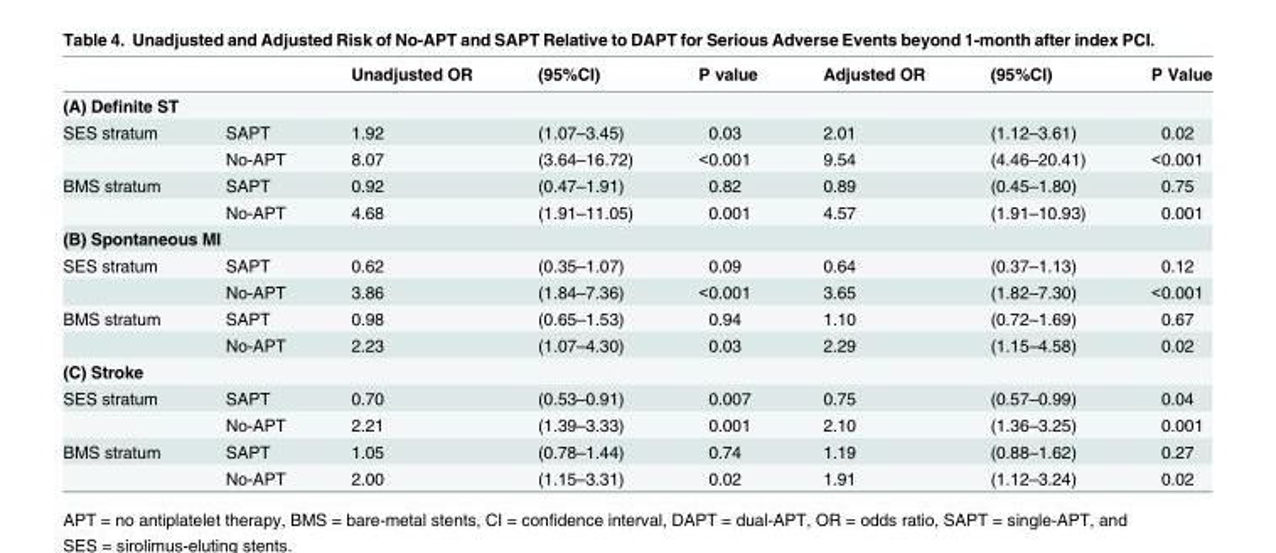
<table><thead><tr><td></td><td></td><td>Unadjusted OR</td><td>(95%CI)</td><td>P value</td><td>Adjusted OR</td><td>(95%CI)</td><td>P Value</td></tr></thead><tbody><tr><td colspan="8">(A) Definite ST</td></tr><tr><td rowspan="2">SES stratum</td><td>SAPT</td><td>1.92</td><td>(1.07–3.45)</td><td>0.03</td><td>2.01</td><td>(1.12–3.61)</td><td>0.02</td></tr><tr><td>No-APT</td><td>8.07</td><td>(3.64–16.72)</td><td>&lt;0.001</td><td>9.54</td><td>(4.46–20.41)</td><td>&lt;0.001</td></tr><tr><td rowspan="2">BMS stratum</td><td>SAPT</td><td>0.92</td><td>(0.47–1.91)</td><td>0.82</td><td>0.89</td><td>(0.45–1.80)</td><td>0.75</td></tr><tr><td>No-APT</td><td>4.68</td><td>(1.91–11.05)</td><td>0.001</td><td>4.57</td><td>(1.91–10.93)</td><td>0.001</td></tr><tr><td colspan="8">(B) Spontaneous MI</td></tr><tr><td rowspan="2">SES stratum</td><td>SAPT</td><td>0.62</td><td>(0.35–1.07)</td><td>0.09</td><td>0.64</td><td>(0.37–1.13)</td><td>0.12</td></tr><tr><td>No-APT</td><td>3.86</td><td>(1.84–7.36)</td><td>&lt;0.001</td><td>3.65</td><td>(1.82–7.30)</td><td>&lt;0.001</td></tr><tr><td rowspan="2">BMS stratum</td><td>SAPT</td><td>0.98</td><td>(0.65–1.53)</td><td>0.94</td><td>1.10</td><td>(0.72–1.69)</td><td>0.67</td></tr><tr><td>No-APT</td><td>2.23</td><td>(1.07–4.30)</td><td>0.03</td><td>2.29</td><td>(1.15–4.58)</td><td>0.02</td></tr><tr><td colspan="8">(C) Stroke</td></tr><tr><td rowspan="2">SES stratum</td><td>SAPT</td><td>0.70</td><td>(0.53–0.91)</td><td>0.007</td><td>0.75</td><td>(0.57–0.99)</td><td>0.04</td></tr><tr><td>No-APT</td><td>2.21</td><td>(1.39–3.33)</td><td>0.001</td><td>2.10</td><td>(1.36–3.25)</td><td>0.001</td></tr><tr><td rowspan="2">BMS stratum</td><td>SAPT</td><td>1.05</td><td>(0.78–1.44)</td><td>0.74</td><td>1.19</td><td>(0.88–1.62)</td><td>0.27</td></tr><tr><td>No-APT</td><td>2.00</td><td>(1.15–3.31)</td><td>0.02</td><td>1.91</td><td>(1.12–3.24)</td><td>0.02</td></tr></tbody></table>